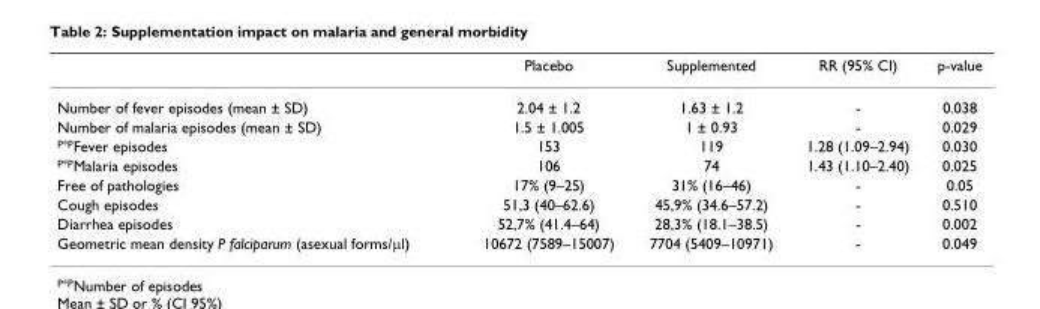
<table><thead><tr><td></td><td>Placebo</td><td>Supplemented</td><td>RR (95% CI)</td><td>p-value</td></tr></thead><tbody><tr><td>Number of fever episodes (mean ± SD)</td><td>2.04 ± 1.2</td><td>1.63 ± 1.2</td><td>-</td><td>0.038</td></tr><tr><td>Number of malaria episodes (mean ± SD)</td><td>1.5 ± 1.005</td><td>1 ± 0.93</td><td>-</td><td>0.029</td></tr><tr><td><sup>P*P</sup>Fever episodes</td><td>153</td><td>119</td><td>1.28 (1.09–2.94)</td><td>0.030</td></tr><tr><td><sup>P*P</sup>Malaria episodes</td><td>106</td><td>74</td><td>1.43 (1.10–2.40)</td><td>0.025</td></tr><tr><td>Free of pathologies</td><td>17% (9–25)</td><td>31% (16–46)</td><td>-</td><td>0.05</td></tr><tr><td>Cough episodes</td><td>51,3 (40–62.6)</td><td>45,9% (34.6–57.2)</td><td>-</td><td>0.510</td></tr><tr><td>Diarrhea episodes</td><td>52,7% (41.4–64)</td><td>28,3% (18.1–38.5)</td><td>-</td><td>0.002</td></tr><tr><td>Geometric mean density P falciparum (asexual forms/µl)</td><td>10672 (7589–15007)</td><td>7704 (5409–10971)</td><td>-</td><td>0.049</td></tr></tbody></table>